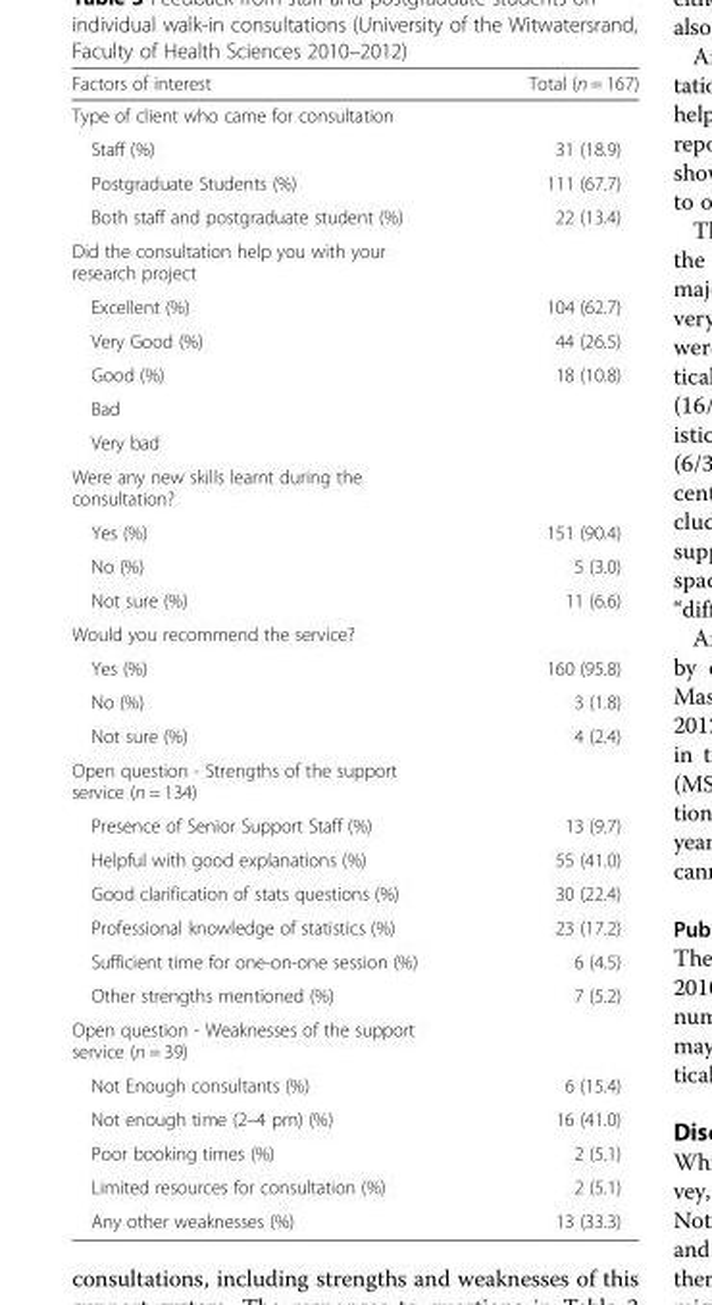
<table><thead><tr><td>Factors of interest</td><td>Total (n = 167)</td></tr></thead><tbody><tr><td colspan="2">Type of client who came for consultation</td></tr><tr><td>Staff (%)</td><td>31 (18.9)</td></tr><tr><td>Postgraduate Students (%)</td><td>111 (67.7)</td></tr><tr><td>Both staff and postgraduate student (%)</td><td>22 (13.4)</td></tr><tr><td colspan="2">Did the consultation help you with your research project</td></tr><tr><td>Excellent (%)</td><td>104 (62.7)</td></tr><tr><td>Very Good (%)</td><td>44 (26.5)</td></tr><tr><td>Good (%)</td><td rowspan="3">18 (10.8)</td></tr><tr><td>Bad</td></tr><tr><td>Very bad</td></tr><tr><td colspan="2">Were any new skills learnt during the consultation?</td></tr><tr><td>Yes (%)</td><td>151 (90.4)</td></tr><tr><td>No (%)</td><td>5 (3.0)</td></tr><tr><td>Not sure (%)</td><td>11 (6.6)</td></tr><tr><td colspan="2">Would you recommend the service?</td></tr><tr><td>Yes (%)</td><td>160 (95.8)</td></tr><tr><td>No (%)</td><td>3 (1.8)</td></tr><tr><td>Not sure (%)</td><td>4 (2.4)</td></tr><tr><td colspan="2">Open question - Strengths of the support service (n = 134)</td></tr><tr><td>Presence of Senior Support Staff (%)</td><td>13 (9.7)</td></tr><tr><td>Helpful with good explanations (%)</td><td>55 (41.0)</td></tr><tr><td>Good clarification of stats questions (%)</td><td>30 (22.4)</td></tr><tr><td>Professional knowledge of statistics (%)</td><td>23 (17.2)</td></tr><tr><td>Sufficient time for one-on-one session (%)</td><td>6 (4.5)</td></tr><tr><td>Other strengths mentioned (%)</td><td>7 (5.2)</td></tr><tr><td colspan="2">Open question - Weaknesses of the support service (n = 39)</td></tr><tr><td>Not Enough consultants (%)</td><td>6 (15.4)</td></tr><tr><td>Not enough time (2–4 pm) (%)</td><td>16 (41.0)</td></tr><tr><td>Poor booking times (%)</td><td>2 (5.1)</td></tr><tr><td>Limited resources for consultation (%)</td><td>2 (5.1)</td></tr><tr><td>Any other weaknesses (%)</td><td>13 (33.3)</td></tr></tbody></table>